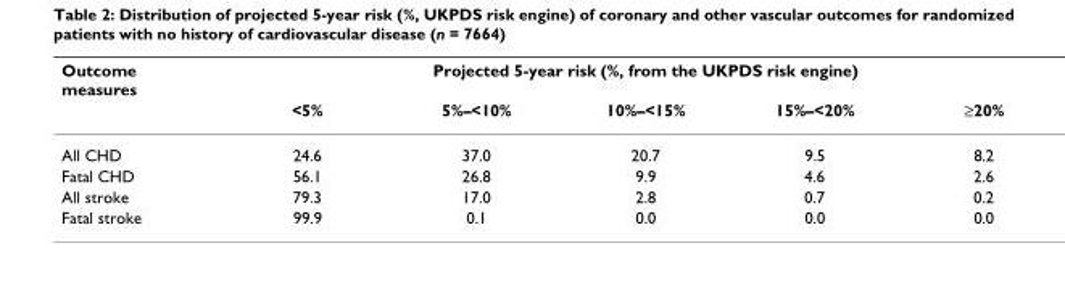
<table><thead><tr><td rowspan="2">Outcome measures</td><td colspan="5">Projected 5-year risk (%, from the UKPDS risk engine)</td></tr><tr><td>&lt;5%</td><td>5%–&lt;10%</td><td>10%–&lt;15%</td><td>15%–&lt;20%</td><td>≥20%</td></tr></thead><tbody><tr><td>All CHD</td><td>24.6</td><td>37.0</td><td>20.7</td><td>9.5</td><td>8.2</td></tr><tr><td>Fatal CHD</td><td>56.1</td><td>26.8</td><td>9.9</td><td>4.6</td><td>2.6</td></tr><tr><td>All stroke</td><td>79.3</td><td>17.0</td><td>2.8</td><td>0.7</td><td>0.2</td></tr><tr><td>Fatal stroke</td><td>99.9</td><td>0.1</td><td>0.0</td><td>0.0</td><td>0.0</td></tr></tbody></table>